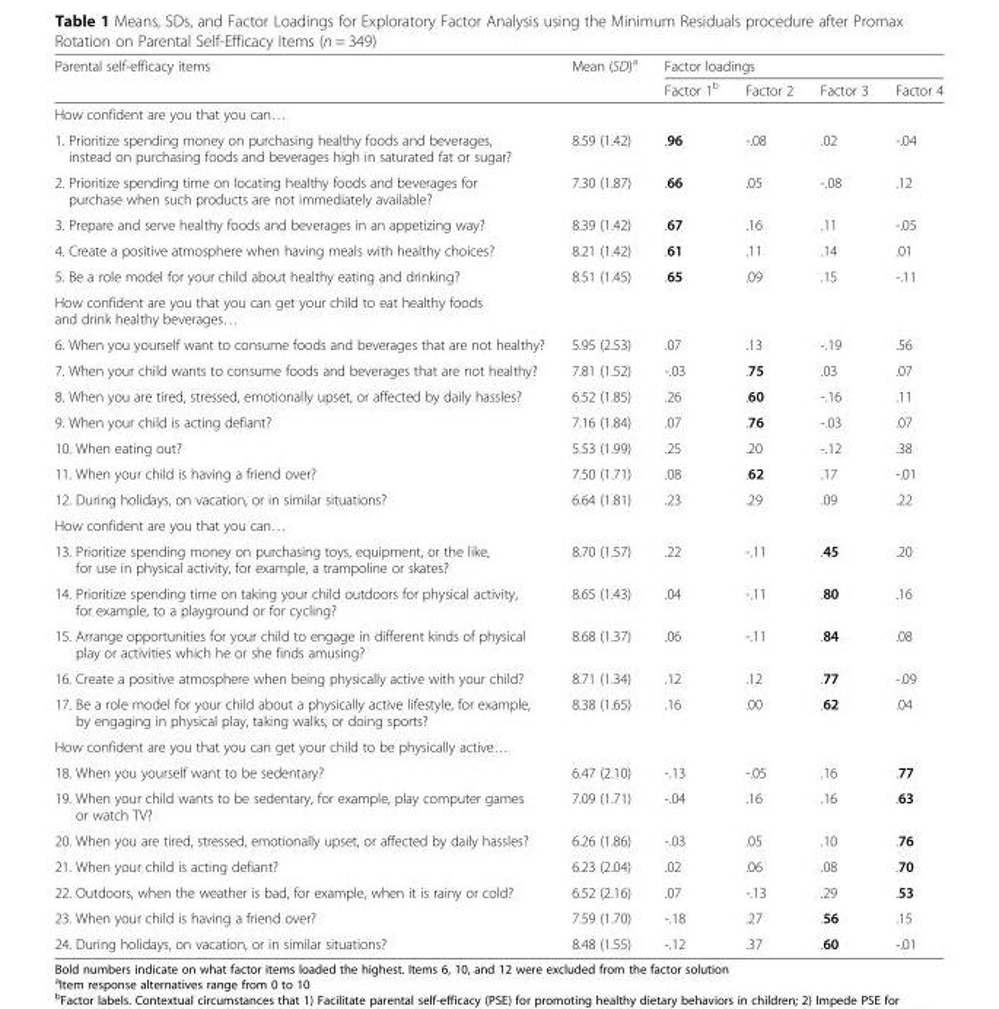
<table><thead><tr><td rowspan="2">Parental self-efficacy items</td><td rowspan="2">Mean (SD)<sup>a</sup></td><td colspan="4">Factor loadings</td></tr><tr><td>Factor 1<sup>b</sup></td><td>Factor 2</td><td>Factor 3</td><td>Factor 4</td></tr></thead><tbody><tr><td colspan="6">How confident are you that you can…</td></tr><tr><td>1. Prioritize spending money on purchasing healthy foods and beverages, instead on purchasing foods and beverages high in saturated fat or sugar?</td><td>8.59 (1.42)</td><td>.96</td><td>-.08</td><td>.02</td><td>-.04</td></tr><tr><td>2. Prioritize spending time on locating healthy foods and beverages for purchase when such products are not immediately available?</td><td>7.30 (1.87)</td><td>.66</td><td>.05</td><td>-.08</td><td>.12</td></tr><tr><td>3. Prepare and serve healthy foods and beverages in an appetizing way?</td><td>8.39 (1.42)</td><td>.67</td><td>.16</td><td>.11</td><td>-.05</td></tr><tr><td>4. Create a positive atmosphere when having meals with healthy choices?</td><td>8.21 (1.42)</td><td>.61</td><td>.11</td><td>.14</td><td>.01</td></tr><tr><td>5. Be a role model for your child about healthy eating and drinking?</td><td>8.51 (1.45)</td><td>.65</td><td>.09</td><td>.15</td><td>-.11</td></tr><tr><td colspan="6">How confident are you that you can get your child to eat healthy foods and drink healthy beverages…</td></tr><tr><td>6. When you yourself want to consume foods and beverages that are not healthy?</td><td>5.95 (2.53)</td><td>.07</td><td>.13</td><td>-.19</td><td>.56</td></tr><tr><td>7. When your child wants to consume foods and beverages that are not healthy?</td><td>7.81 (1.52)</td><td>-.03</td><td>.75</td><td>.03</td><td>.07</td></tr><tr><td>8. When you are tired, stressed, emotionally upset, or affected by daily hassles?</td><td>6.52 (1.85)</td><td>.26</td><td>.60</td><td>-.16</td><td>.11</td></tr><tr><td>9. When your child is acting defiant?</td><td>7.16 (1.84)</td><td>.07</td><td>.76</td><td>-.03</td><td>.07</td></tr><tr><td>10. When eating out?</td><td>5.53 (1.99)</td><td>.25</td><td>.20</td><td>-.12</td><td>.38</td></tr><tr><td>11. When your child is having a friend over?</td><td>7.50 (1.71)</td><td>.08</td><td>.62</td><td>.17</td><td>-.01</td></tr><tr><td>12. During holidays, on vacation, or in similar situations?</td><td>6.64 (1.81)</td><td>.23</td><td>.29</td><td>.09</td><td>.22</td></tr><tr><td colspan="6">How confident are you that you can…</td></tr><tr><td>13. Prioritize spending money on purchasing toys, equipment, or the like, for use in physical activity, for example, a trampoline or skates?</td><td>8.70 (1.57)</td><td>.22</td><td>-.11</td><td>.45</td><td>.20</td></tr><tr><td>14. Prioritize spending time on taking your child outdoors for physical activity, for example, to a playground or for cycling?</td><td>8.65 (1.43)</td><td>.04</td><td>-.11</td><td>.80</td><td>.16</td></tr><tr><td>15. Arrange opportunities for your child to engage in different kinds of physical play or activities which he or she finds amusing?</td><td>8.68 (1.37)</td><td>.06</td><td>-.11</td><td>.84</td><td>.08</td></tr><tr><td>16. Create a positive atmosphere when being physically active with your child?</td><td>8.71 (1.34)</td><td>.12</td><td>.12</td><td>.77</td><td>-.09</td></tr><tr><td>17. Be a role model for your child about a physically active lifestyle, for example, by engaging in physical play, taking walks, or doing sports?</td><td>8.38 (1.65)</td><td>.16</td><td>.00</td><td>.62</td><td>.04</td></tr><tr><td colspan="6">How confident are you that you can get your child to be physically active…</td></tr><tr><td>18. When you yourself want to be sedentary?</td><td>6.47 (2.10)</td><td>-.13</td><td>-.05</td><td>.16</td><td>.77</td></tr><tr><td>19. When your child wants to be sedentary, for example, play computer games or watch TV?</td><td>7.09 (1.71)</td><td>-.04</td><td>.16</td><td>.16</td><td>.63</td></tr><tr><td>20. When you are tired, stressed, emotionally upset, or affected by daily hassles?</td><td>6.26 (1.86)</td><td>-.03</td><td>.05</td><td>.10</td><td>.76</td></tr><tr><td>21. When your child is acting defiant?</td><td>6.23 (2.04)</td><td>.02</td><td>.06</td><td>.08</td><td>.70</td></tr><tr><td>22. Outdoors, when the weather is bad, for example, when it is rainy or cold?</td><td>6.52 (2.16)</td><td>.07</td><td>-.13</td><td>.29</td><td>.53</td></tr><tr><td>23. When your child is having a friend over?</td><td>7.59 (1.70)</td><td>-.18</td><td>.27</td><td>.56</td><td>.15</td></tr><tr><td>24. During holidays, on vacation, or in similar situations?</td><td>8.48 (1.55)</td><td>-.12</td><td>.37</td><td>.60</td><td>-.01</td></tr></tbody></table>